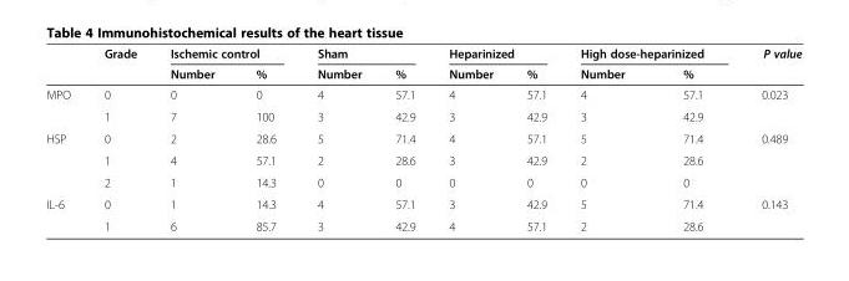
<table><thead><tr><td rowspan="2"></td><td rowspan="2">Grade</td><td colspan="2">Ischemic control</td><td colspan="2">Sham</td><td colspan="2">Heparinized</td><td colspan="2">High dose-heparinized</td><td rowspan="2">P value</td></tr><tr><td>Number</td><td>%</td><td>Number</td><td>%</td><td>Number</td><td>%</td><td>Number</td><td>%</td></tr></thead><tbody><tr><td rowspan="2">MPO</td><td>0</td><td>0</td><td>0</td><td>4</td><td>57.1</td><td>4</td><td>57.1</td><td>4</td><td>57.1</td><td rowspan="2">0.023</td></tr><tr><td>1</td><td>7</td><td>100</td><td>3</td><td>42.9</td><td>3</td><td>42.9</td><td>3</td><td>42.9</td></tr><tr><td rowspan="3">HSP</td><td>0</td><td>2</td><td>28.6</td><td>5</td><td>71.4</td><td>4</td><td>57.1</td><td>5</td><td>71.4</td><td rowspan="3">0.489</td></tr><tr><td>1</td><td>4</td><td>57.1</td><td>2</td><td>28.6</td><td>3</td><td>42.9</td><td>2</td><td>28.6</td></tr><tr><td>2</td><td>1</td><td>14.3</td><td>0</td><td>0</td><td>0</td><td>0</td><td>0</td><td>0</td></tr><tr><td rowspan="2">IL-6</td><td>0</td><td>1</td><td>14.3</td><td>4</td><td>57.1</td><td>3</td><td>42.9</td><td>5</td><td>71.4</td><td rowspan="2">0.143</td></tr><tr><td>1</td><td>6</td><td>85.7</td><td>3</td><td>42.9</td><td>4</td><td>57.1</td><td>2</td><td>28.6</td></tr></tbody></table>